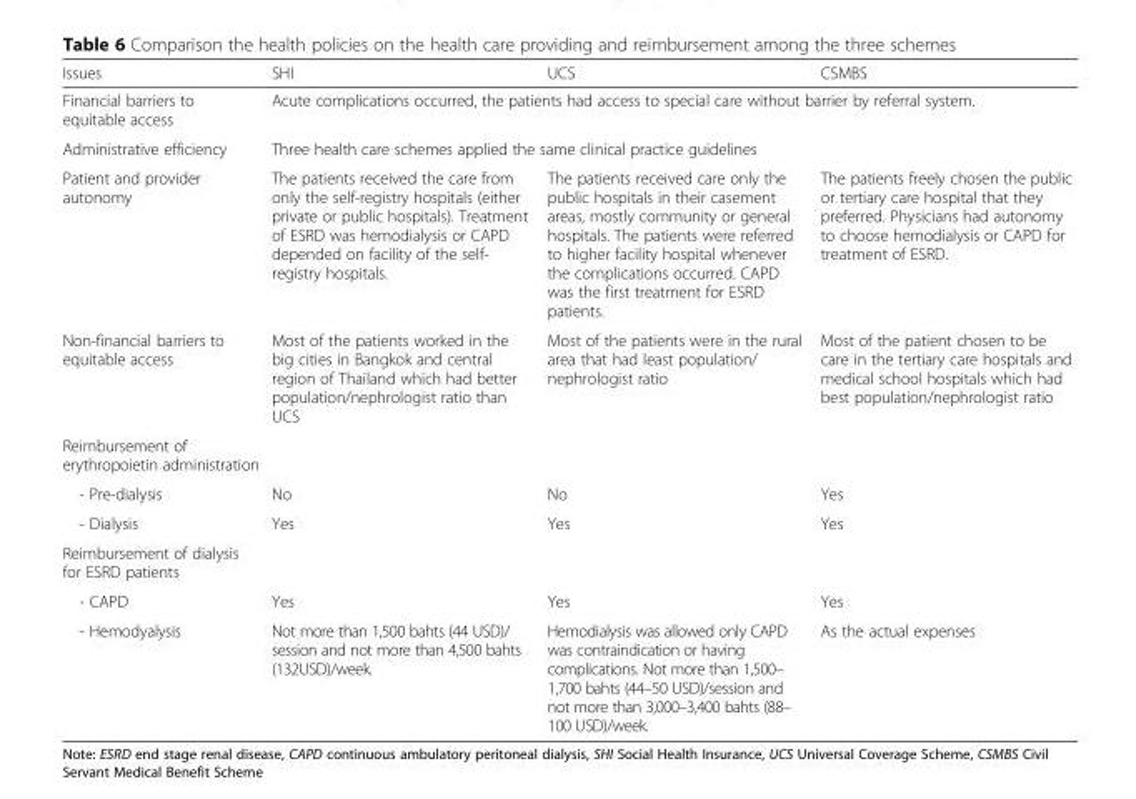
<table><thead><tr><td>Issues</td><td>SHI</td><td>UCS</td><td>CSMBS</td></tr></thead><tbody><tr><td>Financial barriers to equitable access</td><td colspan="3">Acute complications occurred, the patients had access to special care without barrier by referral system.</td></tr><tr><td>Administrative efficiency</td><td colspan="3">Three health care schemes applied the same clinical practice guidelines</td></tr><tr><td>Patient and provider autonomy</td><td>The patients received the care from only the self-registry hospitals (either private or public hospitals). Treatment of ESRD was hemodialysis or CAPD depended on facility of the self- registry hospitals.</td><td>The patients received care only the public hospitals in their casement areas, mostly community or general hospitals. The patients were referred to higher facility hospital whenever the complications occurred. CAPD was the first treatment for ESRD patients.</td><td>The patients freely chosen the public or tertiary care hospital that they preferred. Physicians had autonomy to choose hemodialysis or CAPD for treatment of ESRD.</td></tr><tr><td>Non-financial barriers to equitable access</td><td>Most of the patients worked in the big cities in Bangkok and central region of Thailand which had better population/nephrologist ratio than UCS</td><td>Most of the patients were in the rural area that had least population/ nephrologist ratio</td><td>Most of the patient chosen to be care in the tertiary care hospitals and medical school hospitals which had best population/nephrologist ratio</td></tr><tr><td colspan="4">Reimbursement of erythropoietin administration</td></tr><tr><td>- Pre-dialysis</td><td>No</td><td>No</td><td>Yes</td></tr><tr><td>- Dialysis</td><td>Yes</td><td>Yes</td><td>Yes</td></tr><tr><td colspan="4">Reimbursement of dialysis for ESRD patients</td></tr><tr><td>- CAPD</td><td>Yes</td><td>Yes</td><td>Yes</td></tr><tr><td>- Hemodyalysis</td><td>Not more than 1,500 bahts (44 USD)/ session and not more than 4,500 bahts (132USD)/week.</td><td>Hemodialysis was allowed only CAPD was contraindication or having complications. Not more than 1,500– 1,700 bahts (44–50 USD)/session and not more than 3,000–3,400 bahts (88– 100 USD)/week.</td><td>As the actual expenses</td></tr></tbody></table>